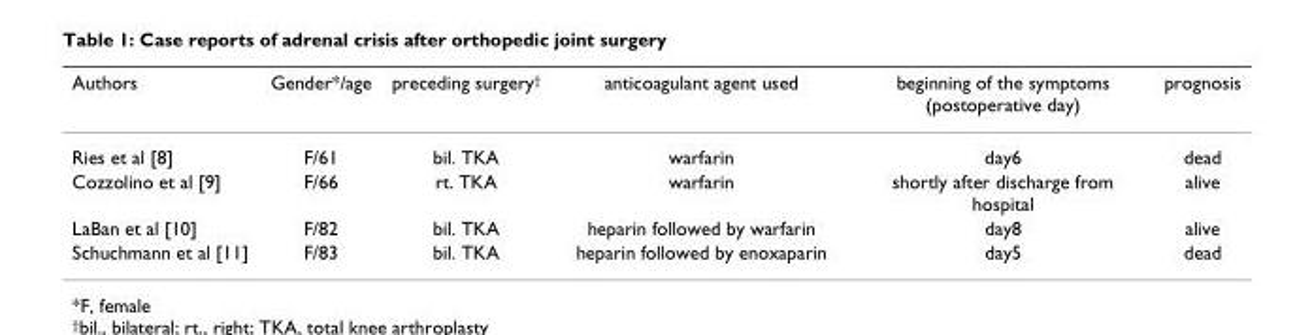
<table><thead><tr><td>Authors</td><td>Gender*/age</td><td>preceding surgery<sup>†</sup></td><td>anticoagulant agent used</td><td>beginning of the symptoms (postoperative day)</td><td>prognosis</td></tr></thead><tbody><tr><td>Ries et al [8]</td><td>F/61</td><td>bil. TKA</td><td>warfarin</td><td>day6</td><td>dead</td></tr><tr><td>Cozzolino et al [9]</td><td>F/66</td><td>rt. TKA</td><td>warfarin</td><td>shortly after discharge from hospital</td><td>alive</td></tr><tr><td>LaBan et al [10]</td><td>F/82</td><td>bil. TKA</td><td>heparin followed by warfarin</td><td>day8</td><td>alive</td></tr><tr><td>Schuchmann et al [11]</td><td>F/83</td><td>bil. TKA</td><td>heparin followed by enoxaparin</td><td>day5</td><td>dead</td></tr></tbody></table>